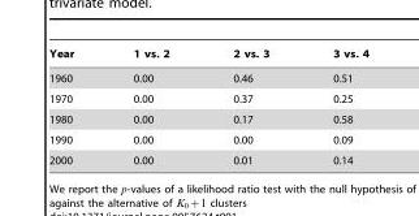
<table><thead><tr><td>Year</td><td>1 vs. 2</td><td>2 vs. 3</td><td>3 vs. 4</td></tr></thead><tbody><tr><td>1960</td><td>0.00</td><td>0.46</td><td>0.51</td></tr><tr><td>1970</td><td>0.00</td><td>0.37</td><td>0.25</td></tr><tr><td>1980</td><td>0.00</td><td>0.17</td><td>0.58</td></tr><tr><td>1990</td><td>0.00</td><td>0.00</td><td>0.09</td></tr><tr><td>2000</td><td>0.00</td><td>0.01</td><td>0.14</td></tr></tbody></table>